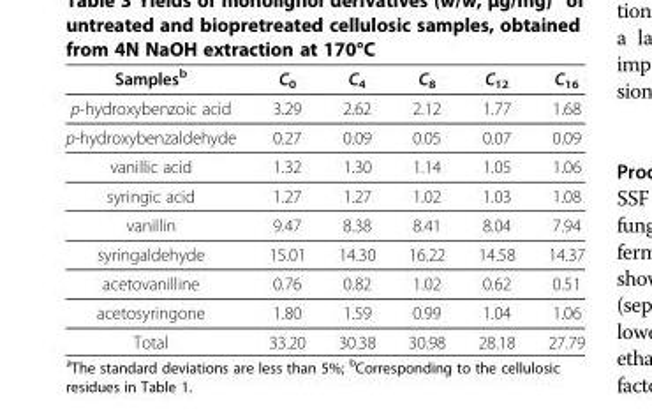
<table><thead><tr><td>Samples<sup>b</sup></td><td>C<sub>0</sub></td><td>C<sub>4</sub></td><td>C<sub>8</sub></td><td>C<sub>12</sub></td><td>C<sub>16</sub></td></tr></thead><tbody><tr><td>p-hydroxybenzoic acid</td><td>3.29</td><td>2.62</td><td>2.12</td><td>1.77</td><td>1.68</td></tr><tr><td>p-hydroxybenzaldehyde</td><td>0.27</td><td>0.09</td><td>0.05</td><td>0.07</td><td>0.09</td></tr><tr><td>vanillic acid</td><td>1.32</td><td>1.30</td><td>1.14</td><td>1.05</td><td>1.06</td></tr><tr><td>syringic acid</td><td>1.27</td><td>1.27</td><td>1.02</td><td>1.03</td><td>1.08</td></tr><tr><td>vanillin</td><td>9.47</td><td>8.38</td><td>8.41</td><td>8.04</td><td>7.94</td></tr><tr><td>syringaldehyde</td><td>15.01</td><td>14.30</td><td>16.22</td><td>14.58</td><td>14.37</td></tr><tr><td>acetovanilline</td><td>0.76</td><td>0.82</td><td>1.02</td><td>0.62</td><td>0.51</td></tr><tr><td>acetosyringone</td><td>1.80</td><td>1.59</td><td>0.99</td><td>1.04</td><td>1.06</td></tr><tr><td>Total</td><td>33.20</td><td>30.38</td><td>30.98</td><td>28.18</td><td>27.79</td></tr></tbody></table>